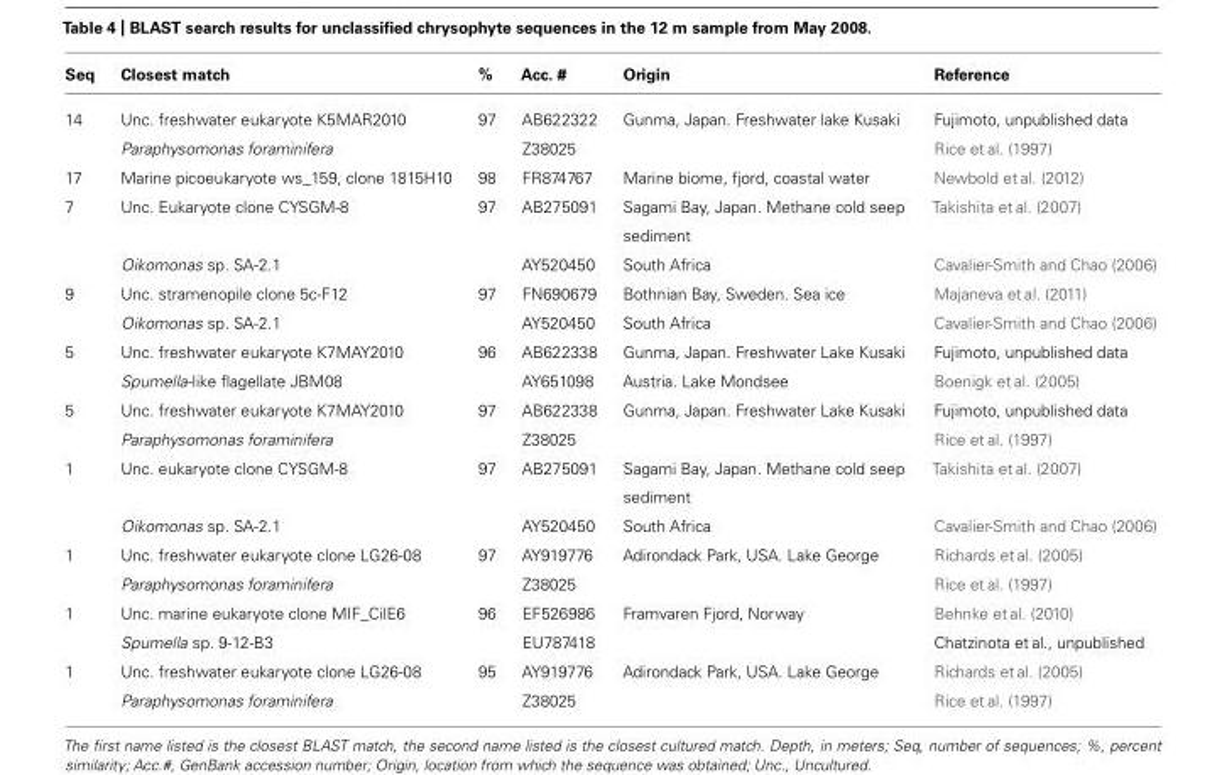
<table><thead><tr><td>Seq</td><td>Closest match</td><td>%</td><td>Acc. #</td><td>Origin</td><td>Reference</td></tr></thead><tbody><tr><td rowspan="2">14</td><td>Unc. freshwater eukaryote K5MAR2010</td><td>97</td><td>AB622322</td><td>Gunma, Japan. Freshwater lake Kusaki</td><td>Fujimoto, unpublished data</td></tr><tr><td>Paraphysomonas foraminifera</td><td></td><td>Z38025</td><td></td><td>Rice et al. (1997)</td></tr><tr><td>17</td><td>Marine picoeukaryote ws_159, clone 1815H10</td><td>98</td><td>FR874767</td><td>Marine biome, fjord, coastal water</td><td>Newbold et al. (2012)</td></tr><tr><td rowspan="2">7</td><td>Unc. Eukaryote clone CYSGM-8</td><td>97</td><td>AB275091</td><td>Sagami Bay, Japan. Methane cold seep sediment</td><td>Takishita et al. (2007)</td></tr><tr><td>Oikomonas sp. SA-2.1</td><td></td><td>AY520450</td><td>South Africa</td><td>Cavalier-Smith and Chao (2006)</td></tr><tr><td rowspan="2">9</td><td>Unc. stramenopile clone 5c-F12</td><td>97</td><td>FN690679</td><td>Bothnian Bay, Sweden. Sea ice</td><td>Majaneva et al. (2011)</td></tr><tr><td>Oikomonas sp. SA-2.1</td><td></td><td>AY520450</td><td>South Africa</td><td>Cavalier-Smith and Chao (2006)</td></tr><tr><td rowspan="2">5</td><td>Unc. freshwater eukaryote K7MAY2010</td><td>96</td><td>AB622338</td><td>Gunma, Japan. Freshwater Lake Kusaki</td><td>Fujimoto, unpublished data</td></tr><tr><td>Spumella-like flagellate JBM08</td><td></td><td>AY651098</td><td>Austria. Lake Mondsee</td><td>Boenigk et al. (2005)</td></tr><tr><td rowspan="2">5</td><td>Unc. freshwater eukaryote K7MAY2010</td><td>97</td><td>AB622338</td><td>Gunma, Japan. Freshwater Lake Kusaki</td><td>Fujimoto, unpublished data</td></tr><tr><td>Paraphysomonas foraminifera</td><td></td><td>Z38025</td><td></td><td>Rice et al. (1997)</td></tr><tr><td rowspan="2">1</td><td>Unc. eukaryote clone CYSGM-8</td><td>97</td><td>AB275091</td><td>Sagami Bay, Japan. Methane cold seep sediment</td><td>Takishita et al. (2007)</td></tr><tr><td>Oikomonas sp. SA-2.1</td><td></td><td>AY520450</td><td>South Africa</td><td>Cavalier-Smith and Chao (2006)</td></tr><tr><td rowspan="2">1</td><td>Unc. freshwater eukaryote clone LG26-08</td><td>97</td><td>AY919776</td><td>Adirondack Park, USA. Lake George</td><td>Richards et al. (2005)</td></tr><tr><td>Paraphysomonas foraminifera</td><td></td><td>Z38025</td><td></td><td>Rice et al. (1997)</td></tr><tr><td rowspan="2">1</td><td>Unc. marine eukaryote clone MIF_CilE6</td><td>96</td><td>EF526986</td><td>Framvaren Fjord, Norway</td><td>Behnke et al. (2010)</td></tr><tr><td>Spumella sp. 9-12-B3</td><td></td><td>EU787418</td><td></td><td>Chatzinota et al., unpublished</td></tr><tr><td rowspan="2">1</td><td>Unc. freshwater eukaryote clone LG26-08</td><td>95</td><td>AY919776</td><td>Adirondack Park, USA. Lake George</td><td>Richards et al. (2005)</td></tr><tr><td>Paraphysomonas foraminifera</td><td></td><td>Z38025</td><td></td><td>Rice et al. (1997)</td></tr></tbody></table>